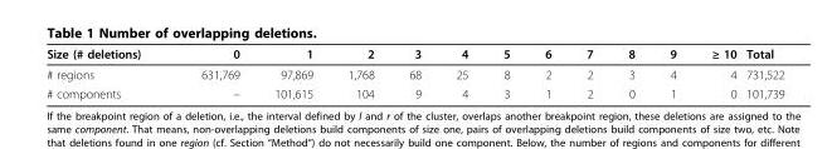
<table><thead><tr><td>Size (# deletions)</td><td>0</td><td>1</td><td>2</td><td>3</td><td>4</td><td>5</td><td>6</td><td>7</td><td>8</td><td>9</td><td>≥ 10</td><td>Total</td></tr></thead><tbody><tr><td># regions</td><td>631,769</td><td>97,869</td><td>1,768</td><td>68</td><td>25</td><td>8</td><td>2</td><td>2</td><td>3</td><td>4</td><td>4</td><td>731,522</td></tr><tr><td># components</td><td>–</td><td>101,615</td><td>104</td><td>9</td><td>4</td><td>3</td><td>1</td><td>2</td><td>0</td><td>1</td><td>0</td><td>101,739</td></tr></tbody></table>